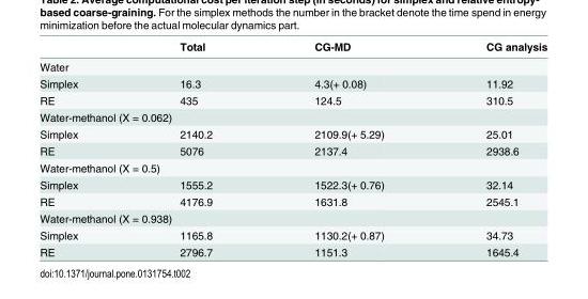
<table><thead><tr><td></td><td>Total</td><td>CG-MD</td><td>CG analysis</td></tr></thead><tbody><tr><td colspan="4">Water</td></tr><tr><td>Simplex</td><td>16.3</td><td>4.3(+ 0.08)</td><td>11.92</td></tr><tr><td>RE</td><td>435</td><td>124.5</td><td>310.5</td></tr><tr><td colspan="4">Water-methanol (X = 0.062)</td></tr><tr><td>Simplex</td><td>2140.2</td><td>2109.9(+ 5.29)</td><td>25.01</td></tr><tr><td>RE</td><td>5076</td><td>2137.4</td><td>2938.6</td></tr><tr><td colspan="4">Water-methanol (X = 0.5)</td></tr><tr><td>Simplex</td><td>1555.2</td><td>1522.3(+ 0.76)</td><td>32.14</td></tr><tr><td>RE</td><td>4176.9</td><td>1631.8</td><td>2545.1</td></tr><tr><td colspan="4">Water-methanol (X = 0.938)</td></tr><tr><td>Simplex</td><td>1165.8</td><td>1130.2(+ 0.87)</td><td>34.73</td></tr><tr><td>RE</td><td>2796.7</td><td>1151.3</td><td>1645.4</td></tr></tbody></table>